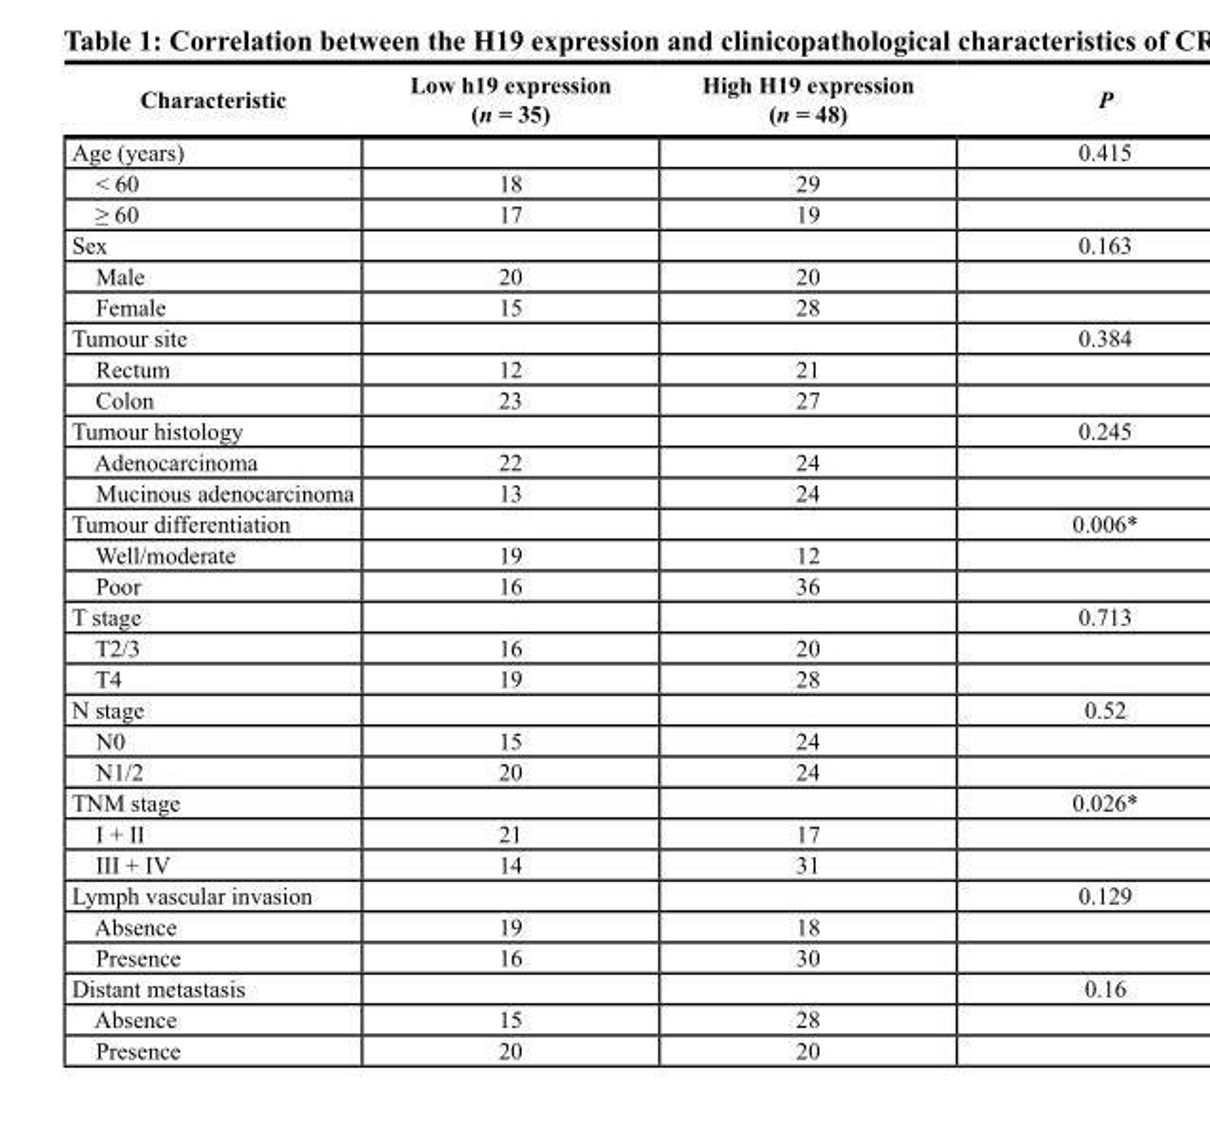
<table><thead><tr><td>Characteristic</td><td>Low h19 expression (n = 35)</td><td>High H19 expression (n = 48)</td><td>P</td></tr></thead><tbody><tr><td>Age (years)</td><td></td><td></td><td>0.415</td></tr><tr><td>&lt; 60</td><td>18</td><td>29</td><td></td></tr><tr><td>≥ 60</td><td>17</td><td>19</td><td></td></tr><tr><td>Sex</td><td></td><td></td><td>0.163</td></tr><tr><td>Male</td><td>20</td><td>20</td><td></td></tr><tr><td>Female</td><td>15</td><td>28</td><td></td></tr><tr><td>Tumour site</td><td></td><td></td><td>0.384</td></tr><tr><td>Rectum</td><td>12</td><td>21</td><td></td></tr><tr><td>Colon</td><td>23</td><td>27</td><td></td></tr><tr><td>Tumour histology</td><td></td><td></td><td>0.245</td></tr><tr><td>Adenocarcinoma</td><td>22</td><td>24</td><td></td></tr><tr><td>Mucinous adenocarcinoma</td><td>13</td><td>24</td><td></td></tr><tr><td>Tumour differentiation</td><td></td><td></td><td>0.006*</td></tr><tr><td>Well/moderate</td><td>19</td><td>12</td><td></td></tr><tr><td>Poor</td><td>16</td><td>36</td><td></td></tr><tr><td>T stage</td><td></td><td></td><td>0.713</td></tr><tr><td>T2/3</td><td>16</td><td>20</td><td></td></tr><tr><td>T4</td><td>19</td><td>28</td><td></td></tr><tr><td>N stage</td><td></td><td></td><td>0.52</td></tr><tr><td>N0</td><td>15</td><td>24</td><td></td></tr><tr><td>N1/2</td><td>20</td><td>24</td><td></td></tr><tr><td>TNM stage</td><td></td><td></td><td>0.026*</td></tr><tr><td>I + II</td><td>21</td><td>17</td><td></td></tr><tr><td>III + IV</td><td>14</td><td>31</td><td></td></tr><tr><td>Lymph vascular invasion</td><td></td><td></td><td>0.129</td></tr><tr><td>Absence</td><td>19</td><td>18</td><td></td></tr><tr><td>Presence</td><td>16</td><td>30</td><td></td></tr><tr><td>Distant metastasis</td><td></td><td></td><td>0.16</td></tr><tr><td>Absence</td><td>15</td><td>28</td><td></td></tr><tr><td>Presence</td><td>20</td><td>20</td><td></td></tr></tbody></table>